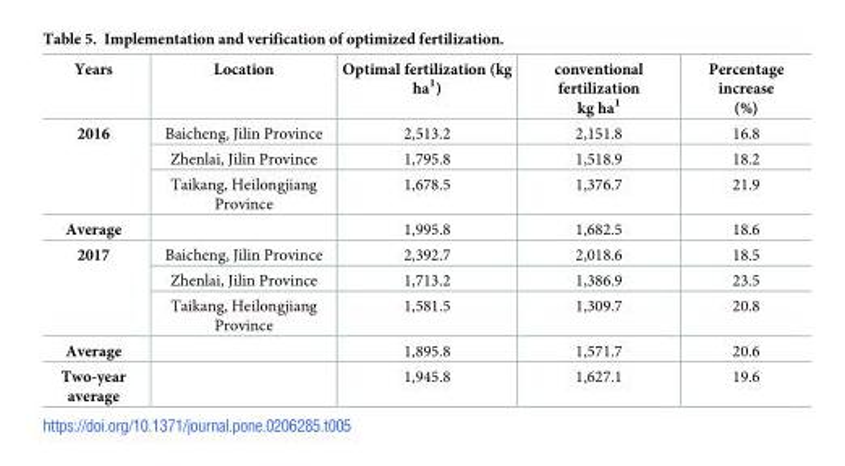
<table><thead><tr><td>Years</td><td>Location</td><td>Optimal fertilization (kg ha<sup>1</sup>)</td><td>conventional fertilization kg ha<sup>1</sup></td><td>Percentage increase (%)</td></tr></thead><tbody><tr><td rowspan="3">2016</td><td>Baicheng, Jilin Province</td><td>2,513.2</td><td>2,151.8</td><td>16.8</td></tr><tr><td>Zhenlai, Jilin Province</td><td>1,795.8</td><td>1,518.9</td><td>18.2</td></tr><tr><td>Taikang, Heilongjiang Province</td><td>1,678.5</td><td>1,376.7</td><td>21.9</td></tr><tr><td>Average</td><td></td><td>1,995.8</td><td>1,682.5</td><td>18.6</td></tr><tr><td rowspan="3">2017</td><td>Baicheng, Jilin Province</td><td>2,392.7</td><td>2,018.6</td><td>18.5</td></tr><tr><td>Zhenlai, Jilin Province</td><td>1,713.2</td><td>1,386.9</td><td>23.5</td></tr><tr><td>Taikang, Heilongjiang Province</td><td>1,581.5</td><td>1,309.7</td><td>20.8</td></tr><tr><td>Average</td><td></td><td>1,895.8</td><td>1,571.7</td><td>20.6</td></tr><tr><td>Two-year average</td><td></td><td>1,945.8</td><td>1,627.1</td><td>19.6</td></tr></tbody></table>